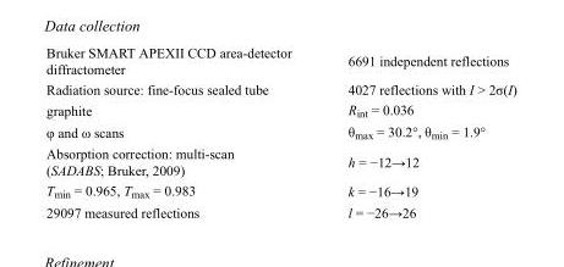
<table><tbody><tr><td>Bruker SMART APEXII CCD area-detector diffractometer</td><td>6691 independent reflections</td></tr><tr><td>Radiation source: fine-focus sealed tube</td><td>4027 reflections with I &gt; 2σ(I)</td></tr><tr><td>graphite</td><td>R<sub>int</sub> = 0.036</td></tr><tr><td>φ and ω scans</td><td>θ<sub>max</sub> = 30.2°, θ<sub>min</sub> = 1.9°</td></tr><tr><td>Absorption correction: multi-scan (SADABS; Bruker, 2009)</td><td>h = −12→12</td></tr><tr><td>T<sub>min</sub> = 0.965, T<sub>max</sub> = 0.983</td><td>k = −16→19</td></tr><tr><td>29097 measured reflections</td><td>l = −26→26</td></tr></tbody></table>